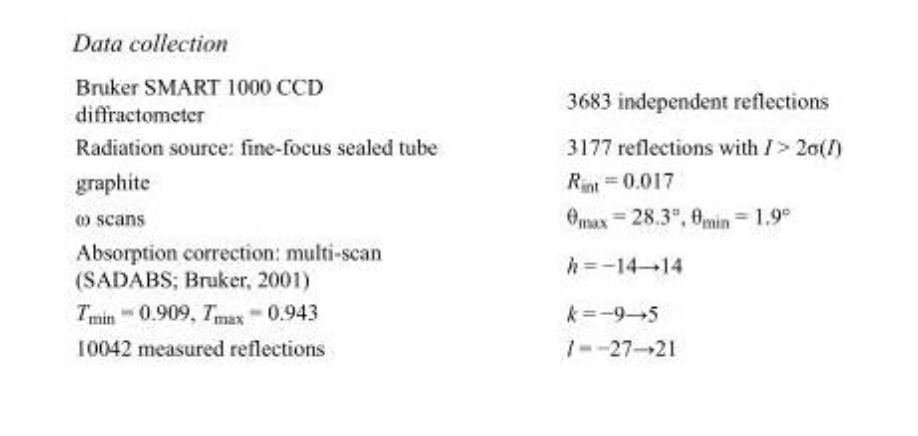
<table><tbody><tr><td>Bruker SMART 1000 CCD diffractometer</td><td>3683 independent reflections</td></tr><tr><td>Radiation source: fine-focus sealed tube</td><td>3177 reflections with I &gt; 2σ(I)</td></tr><tr><td>graphite</td><td>R<sub>int</sub> = 0.017</td></tr><tr><td>ω scans</td><td>θ<sub>max</sub> = 28.3°, θ<sub>min</sub> = 1.9°</td></tr><tr><td>Absorption correction: multi-scan (SADABS; Bruker, 2001)</td><td>h = −14→14</td></tr><tr><td>T<sub>min</sub> = 0.909, T<sub>max</sub> = 0.943</td><td>k = −9→5</td></tr><tr><td>10042 measured reflections</td><td>l = −27→21</td></tr></tbody></table>